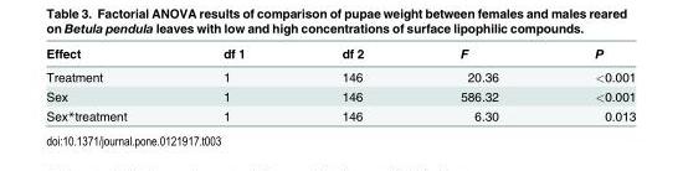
<table><thead><tr><td>Effect</td><td>df 1</td><td>df 2</td><td>F</td><td>P</td></tr></thead><tbody><tr><td>Treatment</td><td>1</td><td>146</td><td>20.36</td><td>&lt;0.001</td></tr><tr><td>Sex</td><td>1</td><td>146</td><td>586.32</td><td>&lt;0.001</td></tr><tr><td>Sex*treatment</td><td>1</td><td>146</td><td>6.30</td><td>0.013</td></tr></tbody></table>